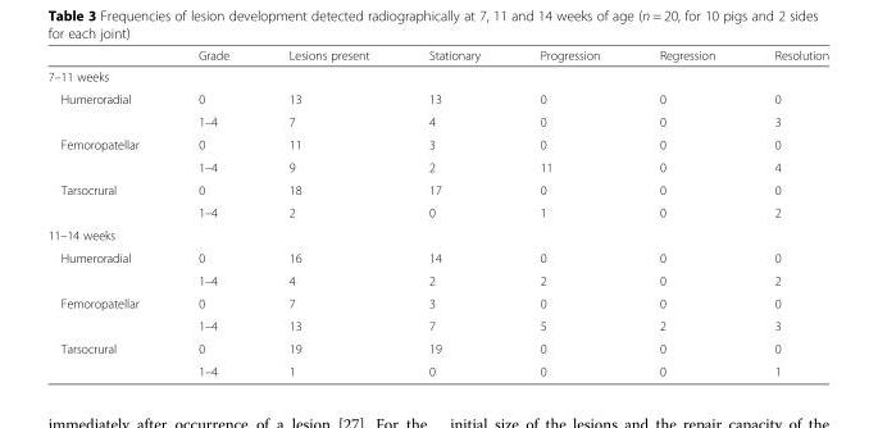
<table><thead><tr><td></td><td>Grade</td><td>Lesions present</td><td>Stationary</td><td>Progression</td><td>Regression</td><td>Resolution</td></tr></thead><tbody><tr><td colspan="7">7–11 weeks</td></tr><tr><td rowspan="2">Humeroradial</td><td>0</td><td>13</td><td>13</td><td>0</td><td>0</td><td>0</td></tr><tr><td>1–4</td><td>7</td><td>4</td><td>0</td><td>0</td><td>3</td></tr><tr><td rowspan="2">Femoropatellar</td><td>0</td><td>11</td><td>3</td><td>0</td><td>0</td><td>0</td></tr><tr><td>1–4</td><td>9</td><td>2</td><td>11</td><td>0</td><td>4</td></tr><tr><td rowspan="2">Tarsocrural</td><td>0</td><td>18</td><td>17</td><td>0</td><td>0</td><td>0</td></tr><tr><td>1–4</td><td>2</td><td>0</td><td>1</td><td>0</td><td>2</td></tr><tr><td colspan="7">11–14 weeks</td></tr><tr><td rowspan="2">Humeroradial</td><td>0</td><td>16</td><td>14</td><td>0</td><td>0</td><td>0</td></tr><tr><td>1–4</td><td>4</td><td>2</td><td>2</td><td>0</td><td>2</td></tr><tr><td rowspan="2">Femoropatellar</td><td>0</td><td>7</td><td>3</td><td>0</td><td>0</td><td>0</td></tr><tr><td>1–4</td><td>13</td><td>7</td><td>5</td><td>2</td><td>3</td></tr><tr><td rowspan="2">Tarsocrural</td><td>0</td><td>19</td><td>19</td><td>0</td><td>0</td><td>0</td></tr><tr><td>1–4</td><td>1</td><td>0</td><td>0</td><td>0</td><td>1</td></tr></tbody></table>